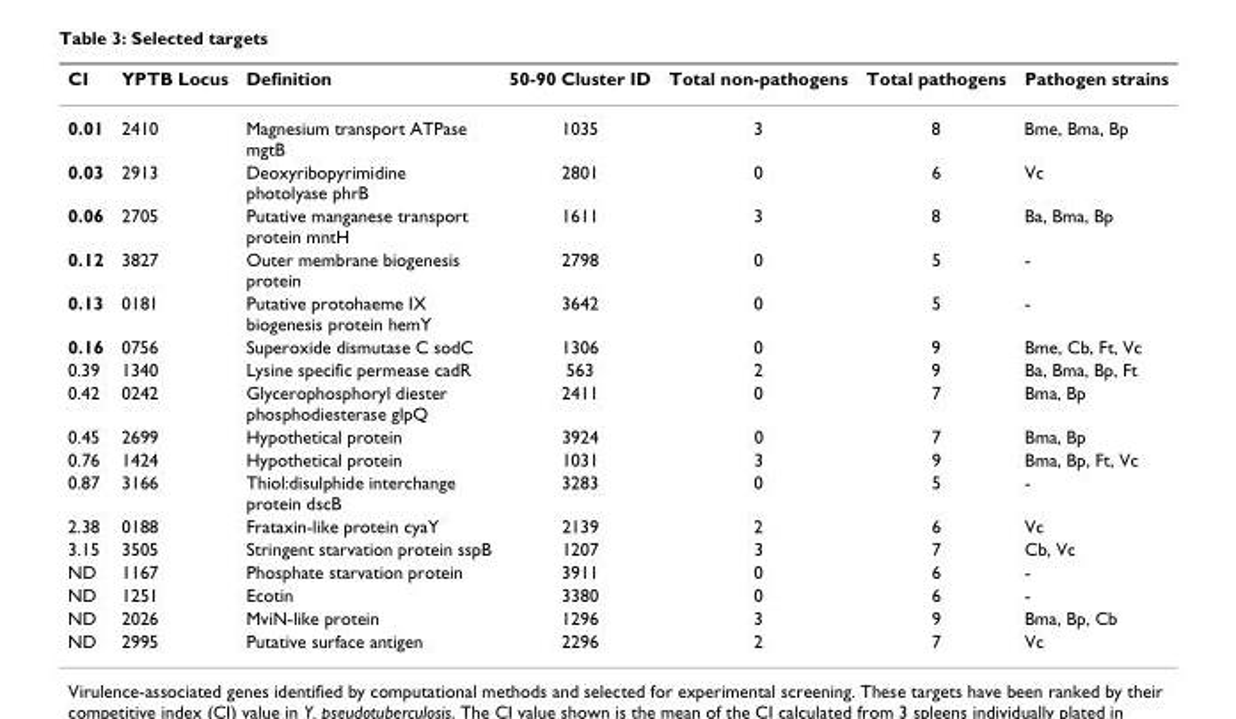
<table><thead><tr><td>CI</td><td>YPTB Locus</td><td>Definition</td><td>50-90 Cluster ID</td><td>Total non-pathogens</td><td>Total pathogens</td><td>Pathogen strains</td></tr></thead><tbody><tr><td>0.01</td><td>2410</td><td>Magnesium transport ATPase mgtB</td><td>1035</td><td>3</td><td>8</td><td>Bme, Bma, Bp</td></tr><tr><td>0.03</td><td>2913</td><td>Deoxyribopyrimidine photolyase phrB</td><td>2801</td><td>0</td><td>6</td><td>Vc</td></tr><tr><td>0.06</td><td>2705</td><td>Putative manganese transport protein mntH</td><td>1611</td><td>3</td><td>8</td><td>Ba, Bma, Bp</td></tr><tr><td>0.12</td><td>3827</td><td>Outer membrane biogenesis protein</td><td>2798</td><td>0</td><td>5</td><td>-</td></tr><tr><td>0.13</td><td>0181</td><td>Putative protohaeme IX biogenesis protein hemY</td><td>3642</td><td>0</td><td>5</td><td>-</td></tr><tr><td>0.16</td><td>0756</td><td>Superoxide dismutase C sodC</td><td>1306</td><td>0</td><td>9</td><td>Bme, Cb, Ft, Vc</td></tr><tr><td>0.39</td><td>1340</td><td>Lysine specific permease cadR</td><td>563</td><td>2</td><td>9</td><td>Ba, Bma, Bp, Ft</td></tr><tr><td>0.42</td><td>0242</td><td>Glycerophosphoryl diester phosphodiesterase glpQ</td><td>2411</td><td>0</td><td>7</td><td>Bma, Bp</td></tr><tr><td>0.45</td><td>2699</td><td>Hypothetical protein</td><td>3924</td><td>0</td><td>7</td><td>Bma, Bp</td></tr><tr><td>0.76</td><td>1424</td><td>Hypothetical protein</td><td>1031</td><td>3</td><td>9</td><td>Bma, Bp, Ft, Vc</td></tr><tr><td>0.87</td><td>3166</td><td>Thiol:disulphide interchange protein dscB</td><td>3283</td><td>0</td><td>5</td><td>-</td></tr><tr><td>2.38</td><td>0188</td><td>Frataxin-like protein cyaY</td><td>2139</td><td>2</td><td>6</td><td>Vc</td></tr><tr><td>3.15</td><td>3505</td><td>Stringent starvation protein sspB</td><td>1207</td><td>3</td><td>7</td><td>Cb, Vc</td></tr><tr><td>ND</td><td>1167</td><td>Phosphate starvation protein</td><td>3911</td><td>0</td><td>6</td><td>-</td></tr><tr><td>ND</td><td>1251</td><td>Ecotin</td><td>3380</td><td>0</td><td>6</td><td>-</td></tr><tr><td>ND</td><td>2026</td><td>MviN-like protein</td><td>1296</td><td>3</td><td>9</td><td>Bma, Bp, Cb</td></tr><tr><td>ND</td><td>2995</td><td>Putative surface antigen</td><td>2296</td><td>2</td><td>7</td><td>Vc</td></tr></tbody></table>